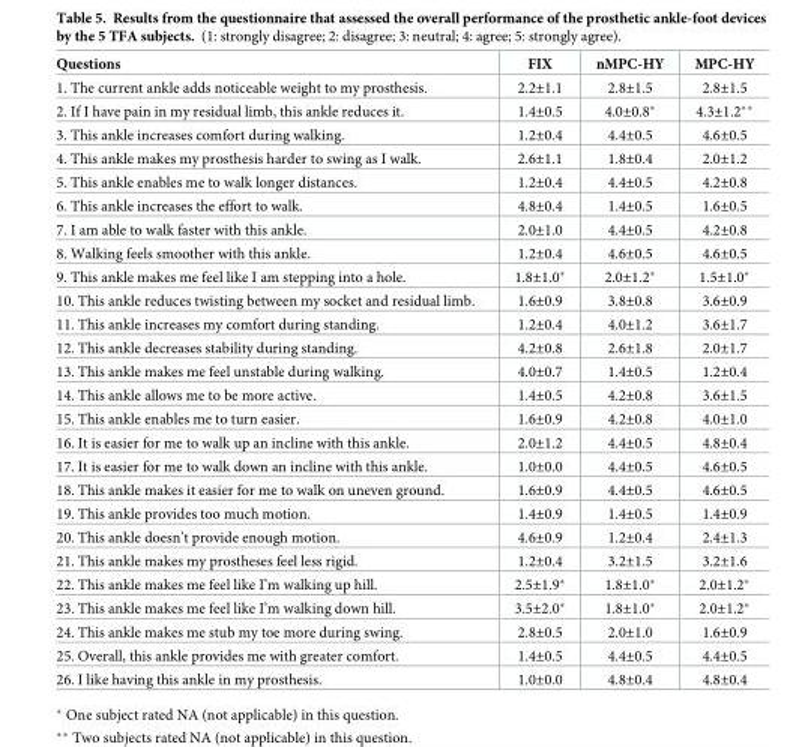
<table><thead><tr><td>Questions</td><td>FIX</td><td>nMPC-HY</td><td>MPC-HY</td></tr></thead><tbody><tr><td>1. The current ankle adds noticeable weight to my prosthesis.</td><td>2.2±1.1</td><td>2.8±1.5</td><td>2.8±1.5</td></tr><tr><td>2. If I have pain in my residual limb, this ankle reduces it.</td><td>1.4±0.5</td><td>4.0±0.8*</td><td>4.3±1.2**</td></tr><tr><td>3. This ankle increases comfort during walking.</td><td>1.2±0.4</td><td>4.4±0.5</td><td>4.6±0.5</td></tr><tr><td>4. This ankle makes my prosthesis harder to swing as I walk.</td><td>2.6±1.1</td><td>1.8±0.4</td><td>2.0±1.2</td></tr><tr><td>5. This ankle enables me to walk longer distances.</td><td>1.2±0.4</td><td>4.4±0.5</td><td>4.2±0.8</td></tr><tr><td>6. This ankle increases the effort to walk.</td><td>4.8±0.4</td><td>1.4±0.5</td><td>1.6±0.5</td></tr><tr><td>7. I am able to walk faster with this ankle.</td><td>2.0±1.0</td><td>4.4±0.5</td><td>4.2±0.8</td></tr><tr><td>8. Walking feels smoother with this ankle.</td><td>1.2±0.4</td><td>4.6±0.5</td><td>4.6±0.5</td></tr><tr><td>9. This ankle makes me feel like I am stepping into a hole.</td><td>1.8±1.0*</td><td>2.0±1.2*</td><td>1.5±1.0*</td></tr><tr><td>10. This ankle reduces twisting between my socket and residual limb.</td><td>1.6±0.9</td><td>3.8±0.8</td><td>3.6±0.9</td></tr><tr><td>11. This ankle increases my comfort during standing.</td><td>1.2±0.4</td><td>4.0±1.2</td><td>3.6±1.7</td></tr><tr><td>12. This ankle decreases stability during standing.</td><td>4.2±0.8</td><td>2.6±1.8</td><td>2.0±1.7</td></tr><tr><td>13. This ankle makes me feel unstable during walking.</td><td>4.0±0.7</td><td>1.4±0.5</td><td>1.2±0.4</td></tr><tr><td>14. This ankle allows me to be more active.</td><td>1.4±0.5</td><td>4.2±0.8</td><td>3.6±1.5</td></tr><tr><td>15. This ankle enables me to turn easier.</td><td>1.6±0.9</td><td>4.2±0.8</td><td>4.0±1.0</td></tr><tr><td>16. It is easier for me to walk up an incline with this ankle.</td><td>2.0±1.2</td><td>4.4±0.5</td><td>4.8±0.4</td></tr><tr><td>17. It is easier for me to walk down an incline with this ankle.</td><td>1.0±0.0</td><td>4.4±0.5</td><td>4.6±0.5</td></tr><tr><td>18. This ankle makes it easier for me to walk on uneven ground.</td><td>1.6±0.9</td><td>4.4±0.5</td><td>4.6±0.5</td></tr><tr><td>19. This ankle provides too much motion.</td><td>1.4±0.9</td><td>1.4±0.5</td><td>1.4±0.9</td></tr><tr><td>20. This ankle doesn’t provide enough motion.</td><td>4.6±0.9</td><td>1.2±0.4</td><td>2.4±1.3</td></tr><tr><td>21. This ankle makes my prostheses feel less rigid.</td><td>1.2±0.4</td><td>3.2±1.5</td><td>3.2±1.6</td></tr><tr><td>22. This ankle makes me feel like I’m walking up hill.</td><td>2.5±1.9*</td><td>1.8±1.0*</td><td>2.0±1.2*</td></tr><tr><td>23. This ankle makes me feel like I’m walking down hill.</td><td>3.5±2.0*</td><td>1.8±1.0*</td><td>2.0±1.2*</td></tr><tr><td>24. This ankle makes me stub my toe more during swing.</td><td>2.8±0.5</td><td>2.0±1.0</td><td>1.6±0.9</td></tr><tr><td>25. Overall, this ankle provides me with greater comfort.</td><td>1.4±0.5</td><td>4.4±0.5</td><td>4.4±0.5</td></tr><tr><td>26. I like having this ankle in my prosthesis.</td><td>1.0±0.0</td><td>4.8±0.4</td><td>4.8±0.4</td></tr></tbody></table>